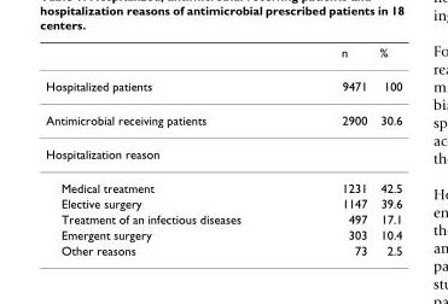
<table><thead><tr><td></td><td>n</td><td>%</td></tr></thead><tbody><tr><td>Hospitalized patients</td><td>9471</td><td>100</td></tr><tr><td>Antimicrobial receiving patients</td><td>2900</td><td>30.6</td></tr><tr><td colspan="3">Hospitalization reason</td></tr><tr><td>Medical treatment</td><td>1231</td><td>42.5</td></tr><tr><td>Elective surgery</td><td>1147</td><td>39.6</td></tr><tr><td>Treatment of an infectious diseases</td><td>497</td><td>17.1</td></tr><tr><td>Emergent surgery</td><td>303</td><td>10.4</td></tr><tr><td>Other reasons</td><td>73</td><td>2.5</td></tr></tbody></table>